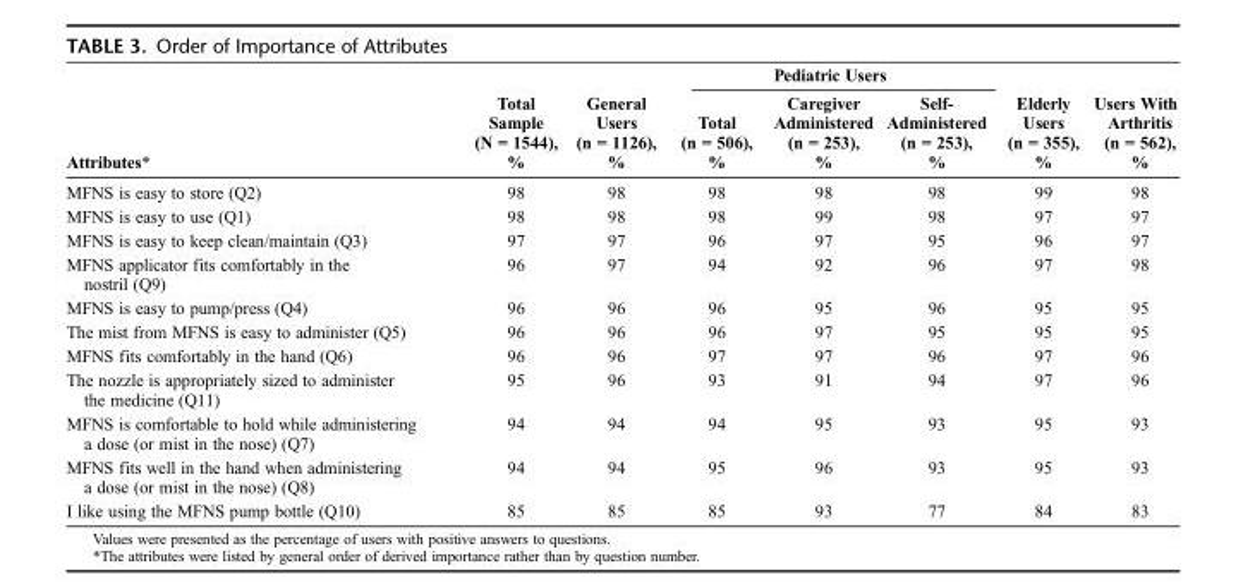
<table><thead><tr><td rowspan="2">Attributes*</td><td rowspan="2">Total Sample (N = 1544), %</td><td rowspan="2">General Users (n = 1126), %</td><td colspan="3">Pediatric Users</td><td rowspan="2">Elderly Users (n = 355), %</td><td rowspan="2">Users With Arthritis (n = 562), %</td></tr><tr><td>Total (n = 506), %</td><td>Caregiver Administered (n = 253), %</td><td>Self- Administered (n = 253), %</td></tr></thead><tbody><tr><td>MFNS is easy to store (Q2)</td><td>98</td><td>98</td><td>98</td><td>98</td><td>98</td><td>99</td><td>98</td></tr><tr><td>MFNS is easy to use (Q1)</td><td>98</td><td>98</td><td>98</td><td>99</td><td>98</td><td>97</td><td>97</td></tr><tr><td>MFNS is easy to keep clean/maintain (Q3)</td><td>97</td><td>97</td><td>96</td><td>97</td><td>95</td><td>96</td><td>97</td></tr><tr><td>MFNS applicator fits comfortably in the nostril (Q9)</td><td>96</td><td>97</td><td>94</td><td>92</td><td>96</td><td>97</td><td>98</td></tr><tr><td>MFNS is easy to pump/press (Q4)</td><td>96</td><td>96</td><td>96</td><td>95</td><td>96</td><td>95</td><td>95</td></tr><tr><td>The mist from MFNS is easy to administer (Q5)</td><td>96</td><td>96</td><td>96</td><td>97</td><td>95</td><td>95</td><td>95</td></tr><tr><td>MFNS fits comfortably in the hand (Q6)</td><td>96</td><td>96</td><td>97</td><td>97</td><td>96</td><td>97</td><td>96</td></tr><tr><td>The nozzle is appropriately sized to administer the medicine (Q11)</td><td>95</td><td>96</td><td>93</td><td>91</td><td>94</td><td>97</td><td>96</td></tr><tr><td>MFNS is comfortable to hold while administering a dose (or mist in the nose) (Q7)</td><td>94</td><td>94</td><td>94</td><td>95</td><td>93</td><td>95</td><td>93</td></tr><tr><td>MFNS fits well in the hand when administering a dose (or mist in the nose) (Q8)</td><td>94</td><td>94</td><td>95</td><td>96</td><td>93</td><td>95</td><td>93</td></tr><tr><td>I like using the MFNS pump bottle (Q10)</td><td>85</td><td>85</td><td>85</td><td>93</td><td>77</td><td>84</td><td>83</td></tr></tbody></table>